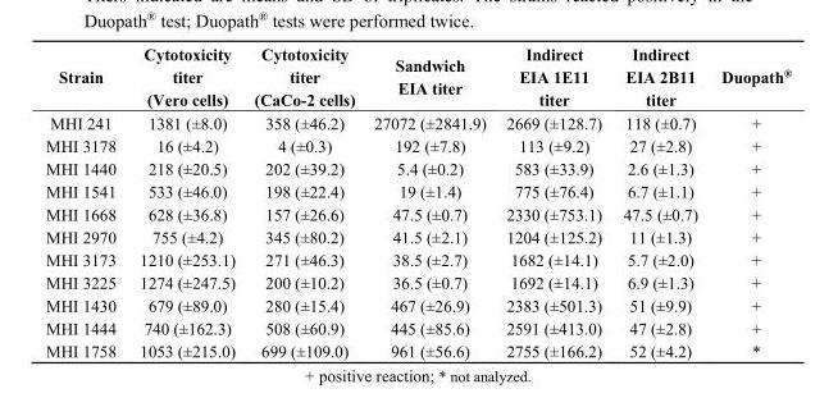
<table><thead><tr><td>Strain</td><td>Cytotoxicity titer (Vero cells)</td><td>Cytotoxicity titer (CaCo-2 cells)</td><td>Sandwich EIA titer</td><td>Indirect EIA 1E11 titer</td><td>Indirect EIA 2B11 titer</td><td>Duopath<sup>®</sup></td></tr></thead><tbody><tr><td>MHI 241</td><td>1381 (±8.0)</td><td>358 (±46.2)</td><td>27072 (±2841.9)</td><td>2669 (±128.7)</td><td>118 (±0.7)</td><td>+</td></tr><tr><td>MHI 3178</td><td>16 (±4.2)</td><td>4 (±0.3)</td><td>192 (±7.8)</td><td>113 (±9.2)</td><td>27 (±2.8)</td><td>+</td></tr><tr><td>MHI 1440</td><td>218 (±20.5)</td><td>202 (±39.2)</td><td>5.4 (±0.2)</td><td>583 (±33.9)</td><td>2.6 (±1.3)</td><td>+</td></tr><tr><td>MHI 1541</td><td>533 (±46.0)</td><td>198 (±22.4)</td><td>19 (±1.4)</td><td>775 (±76.4)</td><td>6.7 (±1.1)</td><td>+</td></tr><tr><td>MHI 1668</td><td>628 (±36.8)</td><td>157 (±26.6)</td><td>47.5 (±0.7)</td><td>2330 (±753.1)</td><td>47.5 (±0.7)</td><td>+</td></tr><tr><td>MHI 2970</td><td>755 (±4.2)</td><td>345 (±80.2)</td><td>41.5 (±2.1)</td><td>1204 (±125.2)</td><td>11 (±1.3)</td><td>+</td></tr><tr><td>MHI 3173</td><td>1210 (±253.1)</td><td>271 (±46.3)</td><td>38.5 (±2.7)</td><td>1682 (±14.1)</td><td>5.7 (±2.0)</td><td>+</td></tr><tr><td>MHI 3225</td><td>1274 (±247.5)</td><td>200 (±10.2)</td><td>36.5 (±0.7)</td><td>1692 (±14.1)</td><td>6.9 (±1.3)</td><td>+</td></tr><tr><td>MHI 1430</td><td>679 (±89.0)</td><td>280 (±15.4)</td><td>467 (±26.9)</td><td>2383 (±501.3)</td><td>51 (±9.9)</td><td>+</td></tr><tr><td>MHI 1444</td><td>740 (±162.3)</td><td>508 (±60.9)</td><td>445 (±85.6)</td><td>2591 (±413.0)</td><td>47 (±2.8)</td><td>+</td></tr><tr><td>MHI 1758</td><td>1053 (±215.0)</td><td>699 (±109.0)</td><td>961 (±56.6)</td><td>2755 (±166.2)</td><td>52 (±4.2)</td><td>*</td></tr></tbody></table>